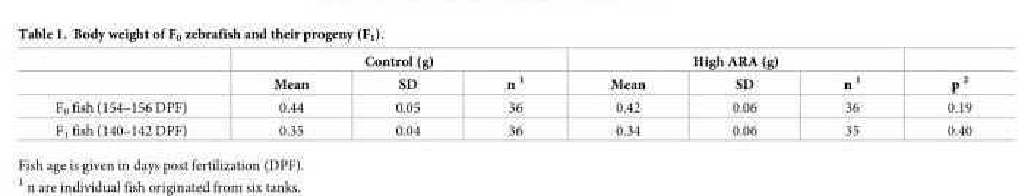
<table><thead><tr><td rowspan="2"></td><td colspan="3">Control (g)</td><td colspan="3">High ARA (g)</td><td rowspan="2">p <sup>2</sup></td></tr><tr><td>Mean</td><td>SD</td><td>n <sup>1</sup></td><td>Mean</td><td>SD</td><td>n <sup>1</sup></td></tr></thead><tbody><tr><td>F<sub>0</sub> fish (154–156 DPF)</td><td>0.44</td><td>0.05</td><td>36</td><td>0.42</td><td>0.06</td><td>36</td><td>0.19</td></tr><tr><td>F<sub>1</sub> fish (140–142 DPF)</td><td>0.35</td><td>0.04</td><td>36</td><td>0.34</td><td>0.06</td><td>35</td><td>0.40</td></tr></tbody></table>